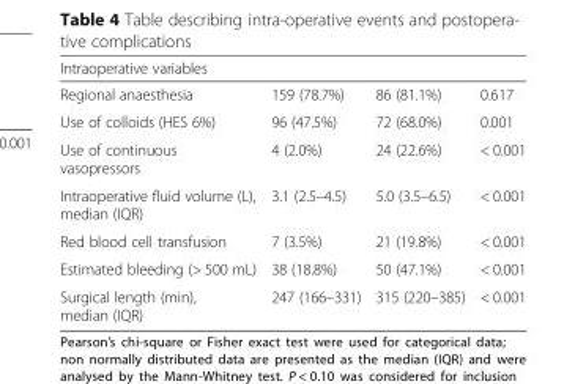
<table><thead><tr><td>Intraoperative variables</td><td></td><td></td><td></td></tr></thead><tbody><tr><td>Regional anaesthesia</td><td>159 (78.7%)</td><td>86 (81.1%)</td><td>0.617</td></tr><tr><td>Use of colloids (HES 6%)</td><td>96 (47.5%)</td><td>72 (68.0%)</td><td>0.001</td></tr><tr><td>Use of continuous vasopressors</td><td>4 (2.0%)</td><td>24 (22.6%)</td><td>&lt; 0.001</td></tr><tr><td>Intraoperative fluid volume (L), median (IQR)</td><td>3.1 (2.5–4.5)</td><td>5.0 (3.5–6.5)</td><td>&lt; 0.001</td></tr><tr><td>Red blood cell transfusion</td><td>7 (3.5%)</td><td>21 (19.8%)</td><td>&lt; 0.001</td></tr><tr><td>Estimated bleeding (&gt; 500 mL)</td><td>38 (18.8%)</td><td>50 (47.1%)</td><td>&lt; 0.001</td></tr><tr><td>Surgical length (min), median (IQR)</td><td>247 (166–331)</td><td>315 (220–385)</td><td>&lt; 0.001</td></tr></tbody></table>